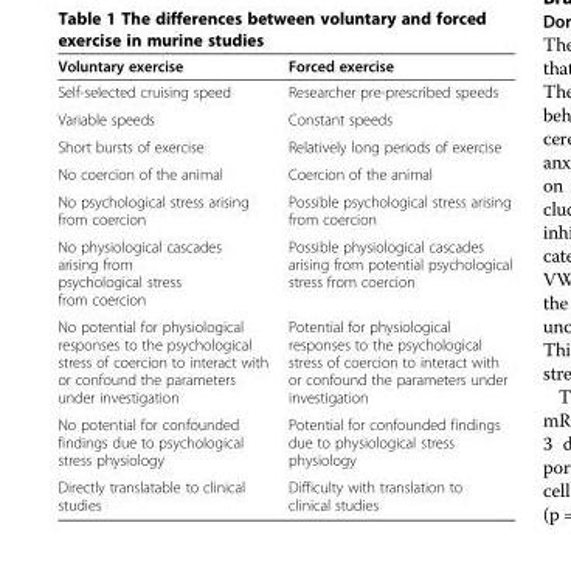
<table><thead><tr><td>Voluntary exercise</td><td>Forced exercise</td></tr></thead><tbody><tr><td>Self-selected cruising speed</td><td>Researcher pre-prescribed speeds</td></tr><tr><td>Variable speeds</td><td>Constant speeds</td></tr><tr><td>Short bursts of exercise</td><td>Relatively long periods of exercise</td></tr><tr><td>No coercion of the animal</td><td>Coercion of the animal</td></tr><tr><td>No psychological stress arising from coercion</td><td>Possible psychological stress arising from coercion</td></tr><tr><td>No physiological cascades arising from psychological stress from coercion</td><td>Possible physiological cascades arising from potential psychological stress from coercion</td></tr><tr><td>No potential for physiological responses to the psychological stress of coercion to interact with or confound the parameters under investigation</td><td>Potential for physiological responses to the psychological stress of coercion to interact with or confound the parameters under investigation</td></tr><tr><td>No potential for confounded findings due to psychological stress physiology</td><td>Potential for confounded findings due to physiological stress physiology</td></tr><tr><td>Directly translatable to clinical studies</td><td>Difficulty with translation to clinical studies</td></tr></tbody></table>